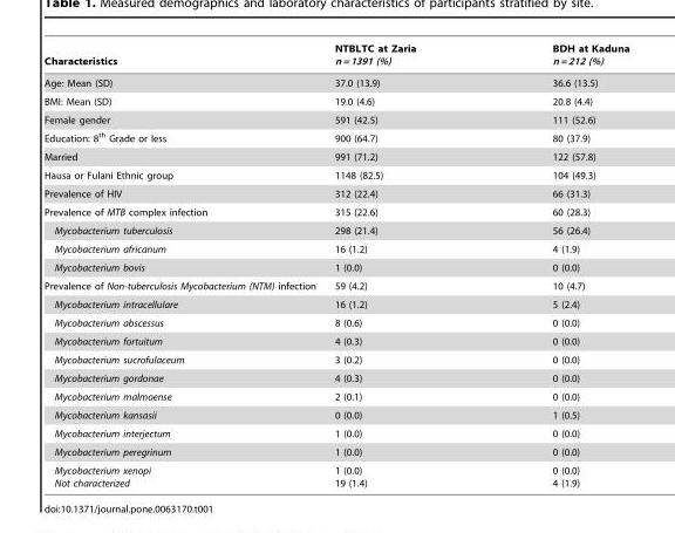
<table><thead><tr><td>Characteristics</td><td>NTBLTC at Zaria n = 1391 (%)</td><td>BDH at Kaduna n = 212 (%)</td></tr></thead><tbody><tr><td>Age: Mean (SD)</td><td>37.0 (13.9)</td><td>36.6 (13.5)</td></tr><tr><td>BMI: Mean (SD)</td><td>19.0 (4.6)</td><td>20.8 (4.4)</td></tr><tr><td>Female gender</td><td>591 (42.5)</td><td>111 (52.6)</td></tr><tr><td>Education: 8<sup>th</sup> Grade or less</td><td>900 (64.7)</td><td>80 (37.9)</td></tr><tr><td>Married</td><td>991 (71.2)</td><td>122 (57.8)</td></tr><tr><td>Hausa or Fulani Ethnic group</td><td>1148 (82.5)</td><td>104 (49.3)</td></tr><tr><td>Prevalence of HIV</td><td>312 (22.4)</td><td>66 (31.3)</td></tr><tr><td>Prevalence of MTB complex infection</td><td>315 (22.6)</td><td>60 (28.3)</td></tr><tr><td>Mycobacterium tuberculosis</td><td>298 (21.4)</td><td>56 (26.4)</td></tr><tr><td>Mycobacterium africanum</td><td>16 (1.2)</td><td>4 (1.9)</td></tr><tr><td>Mycobacterium bovis</td><td>1 (0.0)</td><td>0 (0.0)</td></tr><tr><td>Prevalence of Non-tuberculosis Mycobacterium (NTM) infection</td><td>59 (4.2)</td><td>10 (4.7)</td></tr><tr><td>Mycobacterium intracellulare</td><td>16 (1.2)</td><td>5 (2.4)</td></tr><tr><td>Mycobacterium abscessus</td><td>8 (0.6)</td><td>0 (0.0)</td></tr><tr><td>Mycobacterium fortuitum</td><td>4 (0.3)</td><td>0 (0.0)</td></tr><tr><td>Mycobacterium sucrofulaceum</td><td>3 (0.2)</td><td>0 (0.0)</td></tr><tr><td>Mycobacterium gordonae</td><td>4 (0.3)</td><td>0 (0.0)</td></tr><tr><td>Mycobacterium malmoense</td><td>2 (0.1)</td><td>0 (0.0)</td></tr><tr><td>Mycobacterium kansasii</td><td>0 (0.0)</td><td>1 (0.5)</td></tr><tr><td>Mycobacterium interjectum</td><td>1 (0.0)</td><td>0 (0.0)</td></tr><tr><td>Mycobacterium peregrinum</td><td>1 (0.0)</td><td>0 (0.0)</td></tr><tr><td>Mycobacterium xenopi Not characterized</td><td>1 (0.0) 19 (1.4)</td><td>0 (0.0) 4 (1.9)</td></tr></tbody></table>